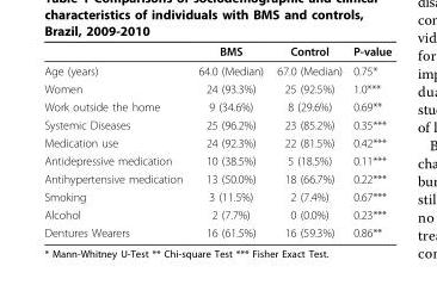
<table><thead><tr><td></td><td>BMS</td><td>Control</td><td>P-value</td></tr></thead><tbody><tr><td>Age (years)</td><td>64.0 (Median)</td><td>67.0 (Median)</td><td>0.75*</td></tr><tr><td>Women</td><td>24 (93.3%)</td><td>25 (92.5%)</td><td>1.0***</td></tr><tr><td>Work outside the home</td><td>9 (34.6%)</td><td>8 (29.6%)</td><td>0.69**</td></tr><tr><td>Systemic Diseases</td><td>25 (96.2%)</td><td>23 (85.2%)</td><td>0.35***</td></tr><tr><td>Medication use</td><td>24 (92.3%)</td><td>22 (81.5%)</td><td>0.42***</td></tr><tr><td>Antidepressive medication</td><td>10 (38.5%)</td><td>5 (18.5%)</td><td>0.11***</td></tr><tr><td>Antihypertensive medication</td><td>13 (50.0%)</td><td>18 (66.7%)</td><td>0.22***</td></tr><tr><td>Smoking</td><td>3 (11.5%)</td><td>2 (7.4%)</td><td>0.67***</td></tr><tr><td>Alcohol</td><td>2 (7.7%)</td><td>0 (0.0%)</td><td>0.23***</td></tr><tr><td>Dentures Wearers</td><td>16 (61.5%)</td><td>16 (59.3%)</td><td>0.86**</td></tr></tbody></table>